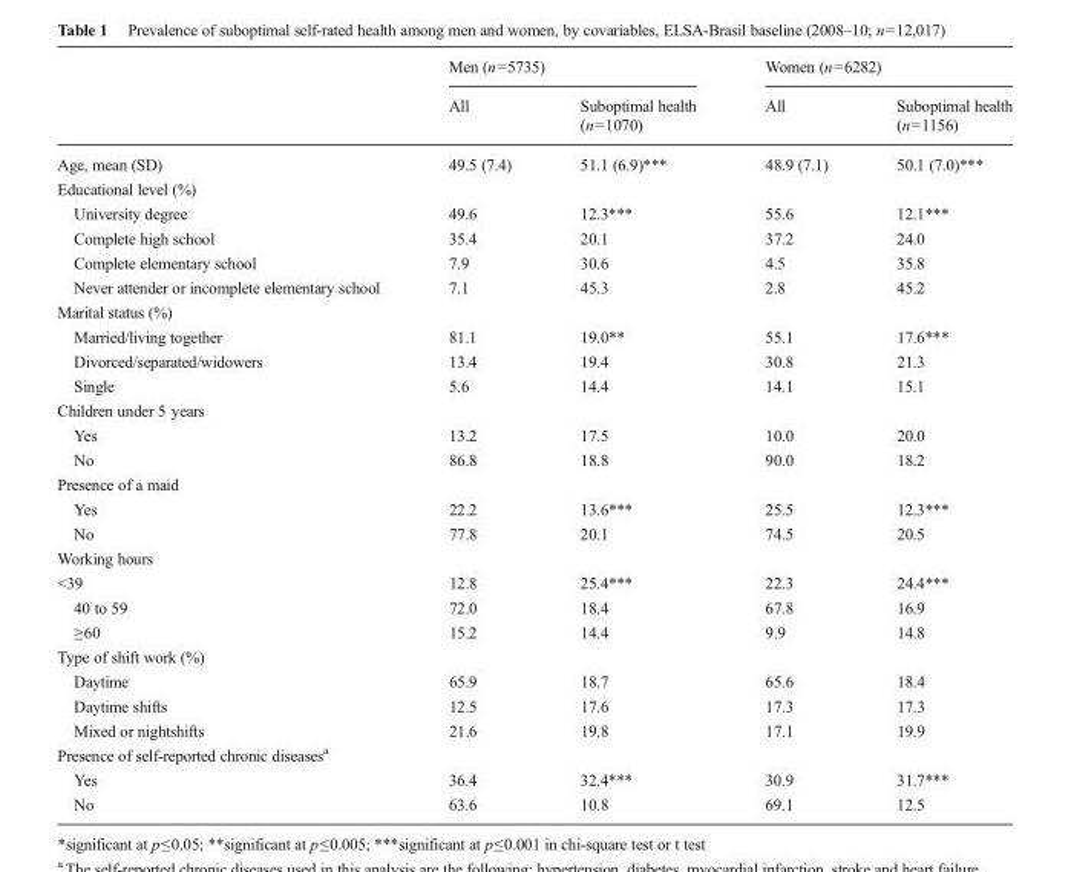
<table><thead><tr><td rowspan="2"></td><td colspan="2">Men (n=5735)</td><td colspan="2">Women (n=6282)</td></tr><tr><td>All</td><td>Suboptimal health (n=1070)</td><td>All</td><td>Suboptimal health (n=1156)</td></tr></thead><tbody><tr><td>Age, mean (SD)</td><td>49.5 (7.4)</td><td>51.1 (6.9)***</td><td>48.9 (7.1)</td><td>50.1 (7.0)***</td></tr><tr><td colspan="5">Educational level (%)</td></tr><tr><td>University degree</td><td>49.6</td><td>12.3***</td><td>55.6</td><td>12.1***</td></tr><tr><td>Complete high school</td><td>35.4</td><td>20.1</td><td>37.2</td><td>24.0</td></tr><tr><td>Complete elementary school</td><td>7.9</td><td>30.6</td><td>4.5</td><td>35.8</td></tr><tr><td>Never attender or incomplete elementary school</td><td>7.1</td><td>45.3</td><td>2.8</td><td>45.2</td></tr><tr><td colspan="5">Marital status (%)</td></tr><tr><td>Married/living together</td><td>81.1</td><td>19.0**</td><td>55.1</td><td>17.6***</td></tr><tr><td>Divorced/separated/widowers</td><td>13.4</td><td>19.4</td><td>30.8</td><td>21.3</td></tr><tr><td>Single</td><td>5.6</td><td>14.4</td><td>14.1</td><td>15.1</td></tr><tr><td colspan="5">Children under 5 years</td></tr><tr><td>Yes</td><td>13.2</td><td>17.5</td><td>10.0</td><td>20.0</td></tr><tr><td>No</td><td>86.8</td><td>18.8</td><td>90.0</td><td>18.2</td></tr><tr><td colspan="5">Presence of a maid</td></tr><tr><td>Yes</td><td>22.2</td><td>13.6***</td><td>25.5</td><td>12.3***</td></tr><tr><td>No</td><td>77.8</td><td>20.1</td><td>74.5</td><td>20.5</td></tr><tr><td colspan="5">Working hours</td></tr><tr><td>&lt;39</td><td>12.8</td><td>25.4***</td><td>22.3</td><td>24.4***</td></tr><tr><td>40 to 59</td><td>72.0</td><td>18.4</td><td>67.8</td><td>16.9</td></tr><tr><td>≥60</td><td>15.2</td><td>14.4</td><td>9.9</td><td>14.8</td></tr><tr><td colspan="5">Type of shift work (%)</td></tr><tr><td>Daytime</td><td>65.9</td><td>18.7</td><td>65.6</td><td>18.4</td></tr><tr><td>Daytime shifts</td><td>12.5</td><td>17.6</td><td>17.3</td><td>17.3</td></tr><tr><td>Mixed or nightshifts</td><td>21.6</td><td>19.8</td><td>17.1</td><td>19.9</td></tr><tr><td colspan="5">Presence of self-reported chronic diseases<sup>a</sup></td></tr><tr><td>Yes</td><td>36.4</td><td>32.4***</td><td>30.9</td><td>31.7***</td></tr><tr><td>No</td><td>63.6</td><td>10.8</td><td>69.1</td><td>12.5</td></tr></tbody></table>